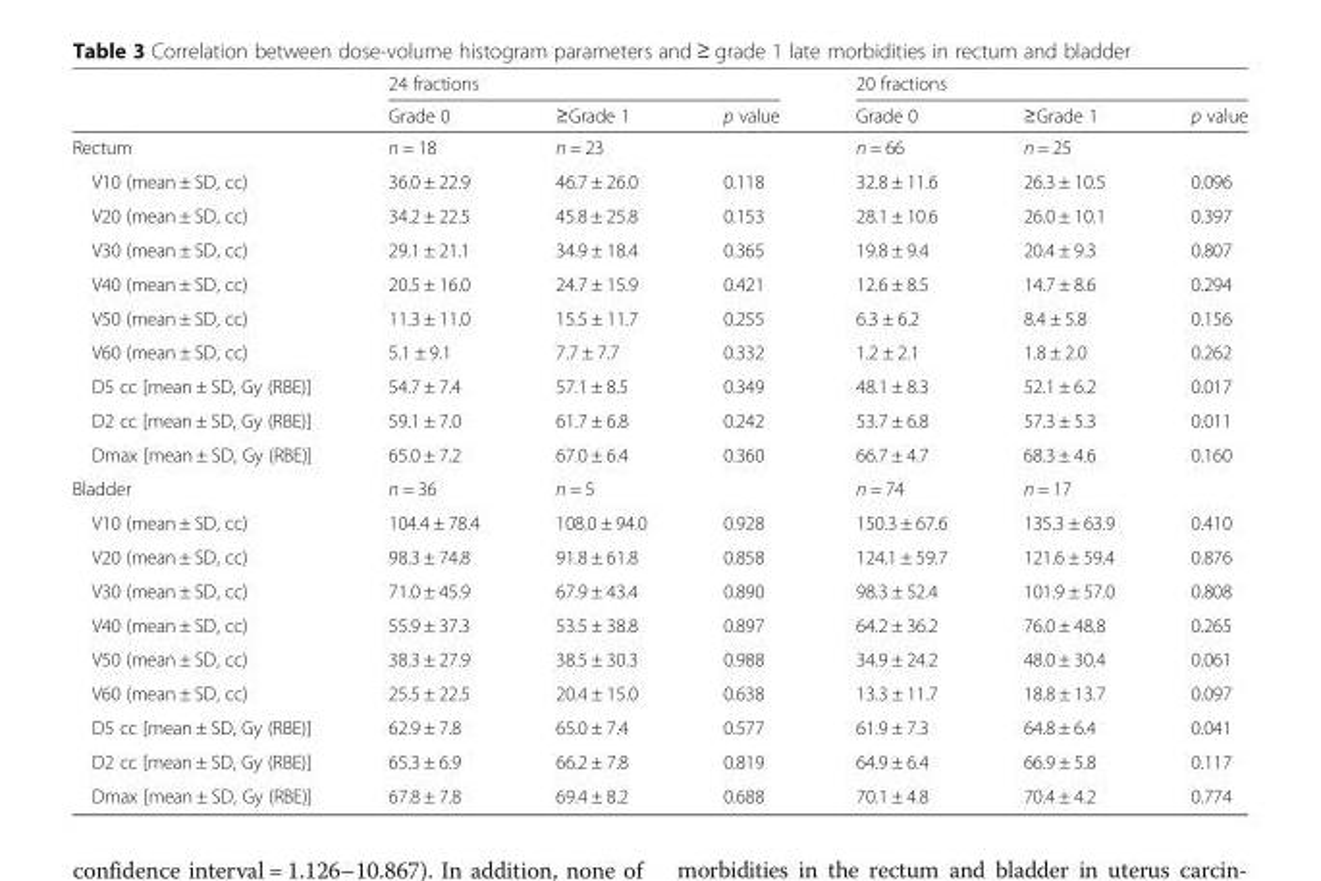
<table><thead><tr><td rowspan="2"></td><td colspan="3">24 fractions</td><td colspan="3">20 fractions</td></tr><tr><td>Grade 0</td><td>≥Grade 1</td><td>p value</td><td>Grade 0</td><td>≥Grade 1</td><td>p value</td></tr></thead><tbody><tr><td>Rectum</td><td>n = 18</td><td>n = 23</td><td></td><td>n = 66</td><td>n = 25</td><td></td></tr><tr><td>V10 (mean ± SD, cc)</td><td>36.0 ± 22.9</td><td>46.7 ± 26.0</td><td>0.118</td><td>32.8 ± 11.6</td><td>26.3 ± 10.5</td><td>0.096</td></tr><tr><td>V20 (mean ± SD, cc)</td><td>34.2 ± 22.5</td><td>45.8 ± 25.8</td><td>0.153</td><td>28.1 ± 10.6</td><td>26.0 ± 10.1</td><td>0.397</td></tr><tr><td>V30 (mean ± SD, cc)</td><td>29.1 ± 21.1</td><td>34.9 ± 18.4</td><td>0.365</td><td>19.8 ± 9.4</td><td>20.4 ± 9.3</td><td>0.807</td></tr><tr><td>V40 (mean ± SD, cc)</td><td>20.5 ± 16.0</td><td>24.7 ± 15.9</td><td>0.421</td><td>12.6 ± 8.5</td><td>14.7 ± 8.6</td><td>0.294</td></tr><tr><td>V50 (mean ± SD, cc)</td><td>11.3 ± 11.0</td><td>15.5 ± 11.7</td><td>0.255</td><td>6.3 ± 6.2</td><td>8.4 ± 5.8</td><td>0.156</td></tr><tr><td>V60 (mean ± SD, cc)</td><td>5.1 ± 9.1</td><td>7.7 ± 7.7</td><td>0.332</td><td>1.2 ± 2.1</td><td>1.8 ± 2.0</td><td>0.262</td></tr><tr><td>D5 cc [mean ± SD, Gy (RBE)]</td><td>54.7 ± 7.4</td><td>57.1 ± 8.5</td><td>0.349</td><td>48.1 ± 8.3</td><td>52.1 ± 6.2</td><td>0.017</td></tr><tr><td>D2 cc [mean ± SD, Gy (RBE)]</td><td>59.1 ± 7.0</td><td>61.7 ± 6.8</td><td>0.242</td><td>53.7 ± 6.8</td><td>57.3 ± 5.3</td><td>0.011</td></tr><tr><td>Dmax [mean ± SD, Gy (RBE)]</td><td>65.0 ± 7.2</td><td>67.0 ± 6.4</td><td>0.360</td><td>66.7 ± 4.7</td><td>68.3 ± 4.6</td><td>0.160</td></tr><tr><td>Bladder</td><td>n = 36</td><td>n = 5</td><td></td><td>n = 74</td><td>n = 17</td><td></td></tr><tr><td>V10 (mean ± SD, cc)</td><td>104.4 ± 78.4</td><td>108.0 ± 94.0</td><td>0.928</td><td>150.3 ± 67.6</td><td>135.3 ± 63.9</td><td>0.410</td></tr><tr><td>V20 (mean ± SD, cc)</td><td>98.3 ± 74.8</td><td>91.8 ± 61.8</td><td>0.858</td><td>124.1 ± 59.7</td><td>121.6 ± 59.4</td><td>0.876</td></tr><tr><td>V30 (mean ± SD, cc)</td><td>71.0 ± 45.9</td><td>67.9 ± 43.4</td><td>0.890</td><td>98.3 ± 52.4</td><td>101.9 ± 57.0</td><td>0.808</td></tr><tr><td>V40 (mean ± SD, cc)</td><td>55.9 ± 37.3</td><td>53.5 ± 38.8</td><td>0.897</td><td>64.2 ± 36.2</td><td>76.0 ± 48.8</td><td>0.265</td></tr><tr><td>V50 (mean ± SD, cc)</td><td>38.3 ± 27.9</td><td>38.5 ± 30.3</td><td>0.988</td><td>34.9 ± 24.2</td><td>48.0 ± 30.4</td><td>0.061</td></tr><tr><td>V60 (mean ± SD, cc)</td><td>25.5 ± 22.5</td><td>20.4 ± 15.0</td><td>0.638</td><td>13.3 ± 11.7</td><td>18.8 ± 13.7</td><td>0.097</td></tr><tr><td>D5 cc [mean ± SD, Gy (RBE)]</td><td>62.9 ± 7.8</td><td>65.0 ± 7.4</td><td>0.577</td><td>61.9 ± 7.3</td><td>64.8 ± 6.4</td><td>0.041</td></tr><tr><td>D2 cc [mean ± SD, Gy (RBE)]</td><td>65.3 ± 6.9</td><td>66.2 ± 7.8</td><td>0.819</td><td>64.9 ± 6.4</td><td>66.9 ± 5.8</td><td>0.117</td></tr><tr><td>Dmax [mean ± SD, Gy (RBE)]</td><td>67.8 ± 7.8</td><td>69.4 ± 8.2</td><td>0.688</td><td>70.1 ± 4.8</td><td>70.4 ± 4.2</td><td>0.774</td></tr></tbody></table>